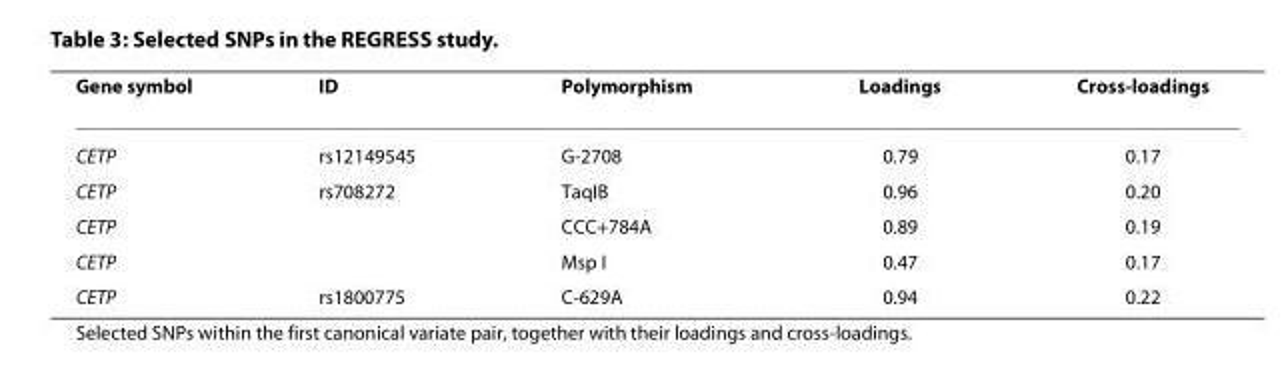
<table><thead><tr><td>Gene symbol</td><td>ID</td><td>Polymorphism</td><td>Loadings</td><td>Cross-loadings</td></tr></thead><tbody><tr><td>CETP</td><td>rs12149545</td><td>G-2708</td><td>0.79</td><td>0.17</td></tr><tr><td>CETP</td><td>rs708272</td><td>TaqIB</td><td>0.96</td><td>0.20</td></tr><tr><td>CETP</td><td></td><td>CCC+784A</td><td>0.89</td><td>0.19</td></tr><tr><td>CETP</td><td></td><td>Msp I</td><td>0.47</td><td>0.17</td></tr><tr><td>CETP</td><td>rs1800775</td><td>C-629A</td><td>0.94</td><td>0.22</td></tr></tbody></table>